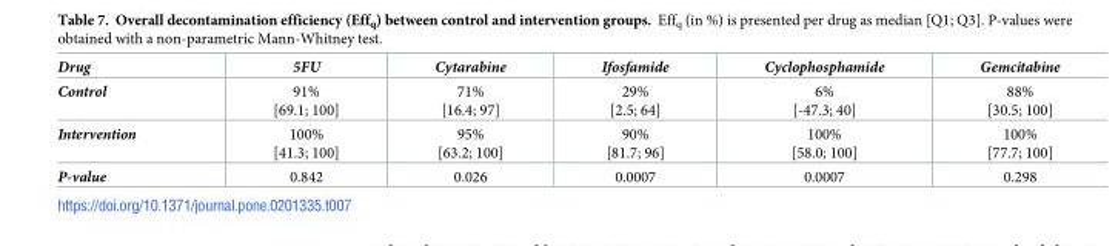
<table><thead><tr><td>Drug</td><td>5FU</td><td>Cytarabine</td><td>Ifosfamide</td><td>Cyclophosphamide</td><td>Gemcitabine</td></tr></thead><tbody><tr><td>Control</td><td>91% [69.1; 100]</td><td>71% [16.4; 97]</td><td>29% [2.5; 64]</td><td>6% [-47.3; 40]</td><td>88% [30.5; 100]</td></tr><tr><td>Intervention</td><td>100% [41.3; 100]</td><td>95% [63.2; 100]</td><td>90% [81.7; 96]</td><td>100% [58.0; 100]</td><td>100% [77.7; 100]</td></tr><tr><td>P-value</td><td>0.842</td><td>0.026</td><td>0.0007</td><td>0.0007</td><td>0.298</td></tr></tbody></table>